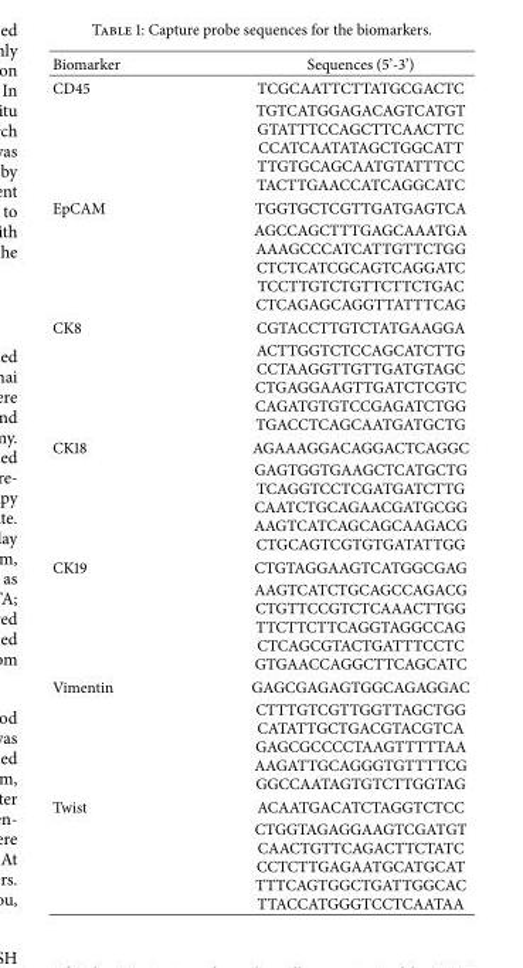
<table><thead><tr><td>Biomarker</td><td>Sequences (5’-3’)</td></tr></thead><tbody><tr><td rowspan="2">CD45</td><td>TCGCAATTCTTATGCGACTC</td></tr><tr><td>TGTCATGGAGACAGTCATGT GTATTTCCAGCTTCAACTTC CCATCAATATAGCTGGCATT TTGTGCAGCAATGTATTTCC TACTTGAACCATCAGGCATC</td></tr><tr><td rowspan="2">EpCAM</td><td>TGGTGCTCGTTGATGAGTCA</td></tr><tr><td>AGCCAGCTTTGAGCAAATGA AAAGCCCATCATTGTTCTGG CTCTCATCGCAGTCAGGATC TCCTTGTCTGTTCTTCTGAC CTCAGAGCAGGTTATTTCAG</td></tr><tr><td rowspan="2">CK8</td><td>CGTACCTTGTCTATGAAGGA</td></tr><tr><td>ACTTGGTCTCCAGCATCTTG CCTAAGGTTGTTGATGTAGC CTGAGGAAGTTGATCTCGTC CAGATGTGTCCGAGATCTGG TGACCTCAGCAATGATGCTG</td></tr><tr><td rowspan="2">CK18</td><td>AGAAAGGACAGGACTCAGGC</td></tr><tr><td>GAGTGGTGAAGCTCATGCTG TCAGGTCCTCGATGATCTTG CAATCTGCAGAACGATGCGG AAGTCATCAGCAGCAAGACG CTGCAGTCGTGTGATATTGG</td></tr><tr><td rowspan="2">CK19</td><td>CTGTAGGAAGTCATGGCGAG</td></tr><tr><td>AAGTCATCTGCAGCCAGACG CTGTTCCGTCTCAAACTTGG TTCTTCTTCAGGTAGGCCAG CTCAGCGTACTGATTTCCTC GTGAACCAGGCTTCAGCATC</td></tr><tr><td rowspan="2">Vimentin</td><td>GAGCGAGAGTGGCAGAGGAC</td></tr><tr><td>CTTTGTCGTTGGTTAGCTGG CATATTGCTGACGTACGTCA GAGCGCCCCTAAGTTTTTAA AAGATTGCAGGGTGTTTTCG GGCCAATAGTGTCTTGGTAG</td></tr><tr><td rowspan="2">Twist</td><td>ACAATGACATCTAGGTCTCC</td></tr><tr><td>CTGGTAGAGGAAGTCGATGT CAACTGTTCAGACTTCTATC CCTCTTGAGAATGCATGCAT TTTCAGTGGCTGATTGGCAC TTACCATGGGTCCTCAATAA</td></tr></tbody></table>